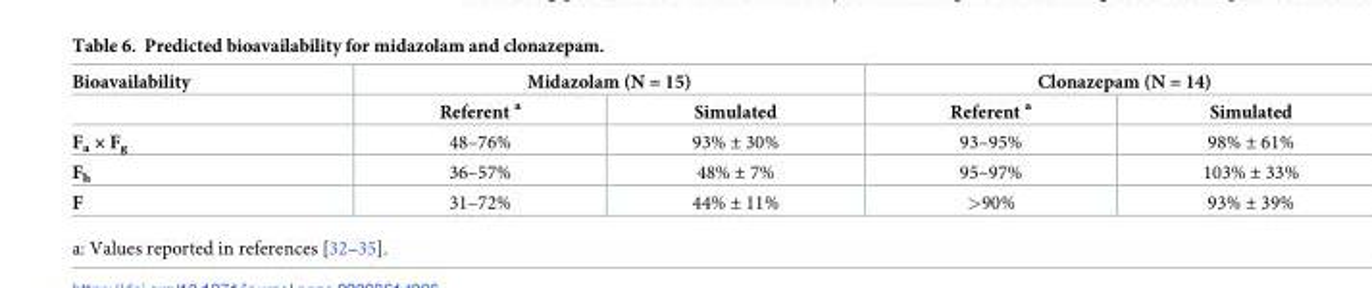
<table><thead><tr><td rowspan="2">Bioavailability</td><td colspan="2">Midazolam (N = 15)</td><td colspan="2">Clonazepam (N = 14)</td></tr><tr><td>Referent <sup>a</sup></td><td>Simulated</td><td>Referent <sup>a</sup></td><td>Simulated</td></tr></thead><tbody><tr><td>F<sub>a</sub> × F<sub>g</sub></td><td>48–76%</td><td>93% ± 30%</td><td>93–95%</td><td>98% ± 61%</td></tr><tr><td>F<sub>h</sub></td><td>36–57%</td><td>48% ± 7%</td><td>95–97%</td><td>103% ± 33%</td></tr><tr><td>F</td><td>31–72%</td><td>44% ± 11%</td><td>&gt;90%</td><td>93% ± 39%</td></tr></tbody></table>